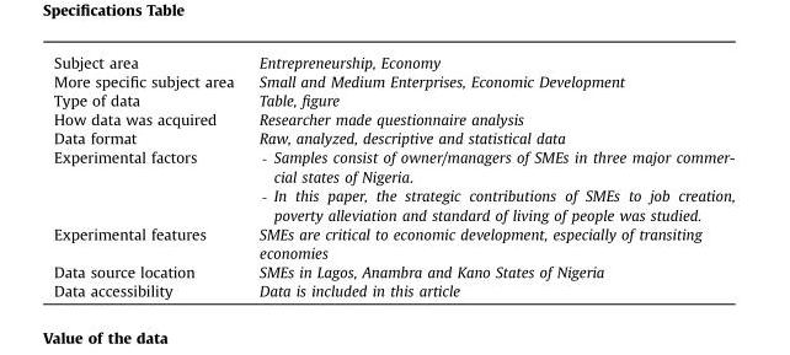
<table><tbody><tr><td>Subject area</td><td>Entrepreneurship, Economy</td></tr><tr><td>More specific subject area</td><td>Small and Medium Enterprises, Economic Development</td></tr><tr><td>Type of data</td><td>Table, figure</td></tr><tr><td>How data was acquired</td><td>Researcher made questionnaire analysis</td></tr><tr><td>Data format</td><td>Raw, analyzed, descriptive and statistical data</td></tr><tr><td>Experimental factors</td><td>- Samples consist of owner/managers of SMEs in three major commer- cial states of Nigeria. - In this paper, the strategic contributions of SMEs to job creation, poverty alleviation and standard of living of people was studied.</td></tr><tr><td>Experimental features</td><td>SMEs are critical to economic development, especially of transiting economies</td></tr><tr><td>Data source location</td><td>SMEs in Lagos, Anambra and Kano States of Nigeria</td></tr><tr><td>Data accessibility</td><td>Data is included in this article</td></tr></tbody></table>